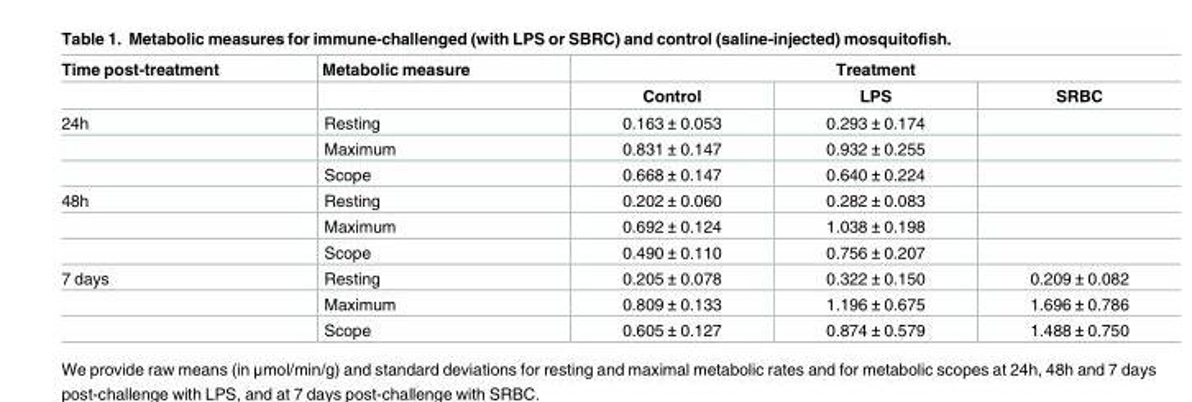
<table><thead><tr><td rowspan="2">Time post-treatment</td><td rowspan="2">Metabolic measure</td><td colspan="3">Treatment</td></tr><tr><td>Control</td><td>LPS</td><td>SRBC</td></tr></thead><tbody><tr><td rowspan="3">24h</td><td>Resting</td><td>0.163 ± 0.053</td><td>0.293 ± 0.174</td><td></td></tr><tr><td>Maximum</td><td>0.831 ± 0.147</td><td>0.932 ± 0.255</td><td></td></tr><tr><td>Scope</td><td>0.668 ± 0.147</td><td>0.640 ± 0.224</td><td></td></tr><tr><td rowspan="3">48h</td><td>Resting</td><td>0.202 ± 0.060</td><td>0.282 ± 0.083</td><td></td></tr><tr><td>Maximum</td><td>0.692 ± 0.124</td><td>1.038 ± 0.198</td><td></td></tr><tr><td>Scope</td><td>0.490 ± 0.110</td><td>0.756 ± 0.207</td><td></td></tr><tr><td rowspan="3">7 days</td><td>Resting</td><td>0.205 ± 0.078</td><td>0.322 ± 0.150</td><td>0.209 ± 0.082</td></tr><tr><td>Maximum</td><td>0.809 ± 0.133</td><td>1.196 ± 0.675</td><td>1.696 ± 0.786</td></tr><tr><td>Scope</td><td>0.605 ± 0.127</td><td>0.874 ± 0.579</td><td>1.488 ± 0.750</td></tr></tbody></table>